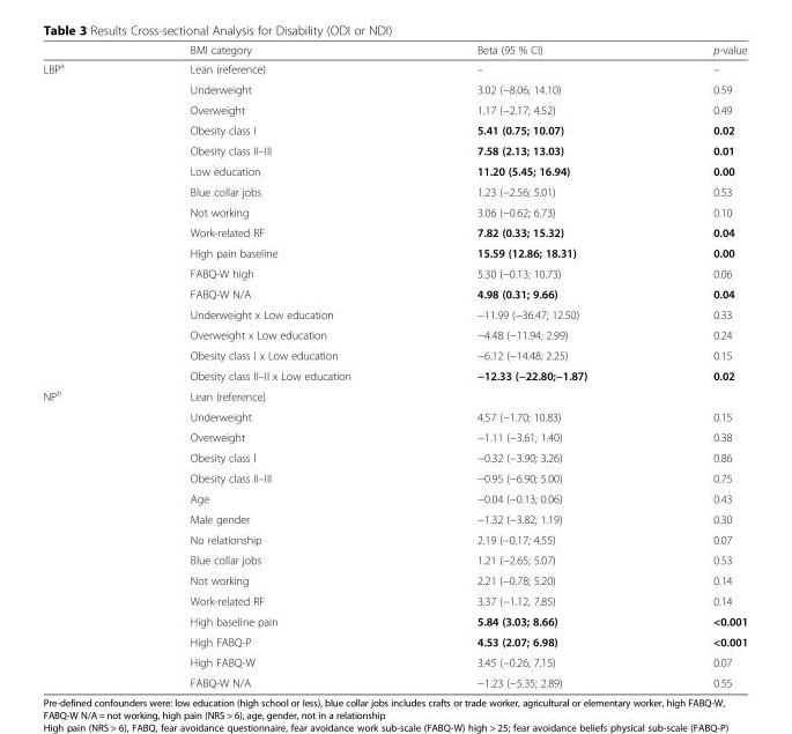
<table><thead><tr><td></td><td>BMI category</td><td>Beta (95 % CI)</td><td>p-value</td></tr></thead><tbody><tr><td rowspan="16">LBP<sup>a</sup></td><td>Lean (reference)</td><td>–</td><td>–</td></tr><tr><td>Underweight</td><td>3.02 (−8.06; 14.10)</td><td>0.59</td></tr><tr><td>Overweight</td><td>1.17 (−2.17; 4.52)</td><td>0.49</td></tr><tr><td>Obesity class I</td><td>5.41 (0.75; 10.07)</td><td>0.02</td></tr><tr><td>Obesity class II–III</td><td>7.58 (2.13; 13.03)</td><td>0.01</td></tr><tr><td>Low education</td><td>11.20 (5.45; 16.94)</td><td>0.00</td></tr><tr><td>Blue collar jobs</td><td>1.23 (−2.56; 5.01)</td><td>0.53</td></tr><tr><td>Not working</td><td>3.06 (−0.62; 6.73)</td><td>0.10</td></tr><tr><td>Work-related RF</td><td>7.82 (0.33; 15.32)</td><td>0.04</td></tr><tr><td>High pain baseline</td><td>15.59 (12.86; 18.31)</td><td>0.00</td></tr><tr><td>FABQ-W high</td><td>5.30 (−0.13; 10.73)</td><td>0.06</td></tr><tr><td>FABQ-W N/A</td><td>4.98 (0.31; 9.66)</td><td>0.04</td></tr><tr><td>Underweight x Low education</td><td>−11.99 (−36.47; 12.50)</td><td>0.33</td></tr><tr><td>Overweight x Low education</td><td>−4.48 (−11.94; 2.99)</td><td>0.24</td></tr><tr><td>Obesity class I x Low education</td><td>−6.12 (−14.48; 2.25)</td><td>0.15</td></tr><tr><td>Obesity class II–II x Low education</td><td>−12.33 (−22.80;−1.87)</td><td>0.02</td></tr><tr><td rowspan="15">NP<sup>b</sup></td><td>Lean (reference)</td><td></td><td></td></tr><tr><td>Underweight</td><td>4.57 (−1.70; 10.83)</td><td>0.15</td></tr><tr><td>Overweight</td><td>−1.11 (−3.61; 1.40)</td><td>0.38</td></tr><tr><td>Obesity class I</td><td>−0.32 (−3.90; 3.26)</td><td>0.86</td></tr><tr><td>Obesity class II–III</td><td>−0.95 (−6.90; 5.00)</td><td>0.75</td></tr><tr><td>Age</td><td>−0.04 (−0.13; 0.06)</td><td>0.43</td></tr><tr><td>Male gender</td><td>−1.32 (−3.82; 1.19)</td><td>0.30</td></tr><tr><td>No relationship</td><td>2.19 (−0.17; 4.55)</td><td>0.07</td></tr><tr><td>Blue collar jobs</td><td>1.21 (−2.65; 5.07)</td><td>0.53</td></tr><tr><td>Not working</td><td>2.21 (−0.78; 5.20)</td><td>0.14</td></tr><tr><td>Work-related RF</td><td>3.37 (−1.12, 7.85)</td><td>0.14</td></tr><tr><td>High baseline pain</td><td>5.84 (3.03; 8.66)</td><td>&lt;0.001</td></tr><tr><td>High FABQ-P</td><td>4.53 (2.07; 6.98)</td><td>&lt;0.001</td></tr><tr><td>High FABQ-W</td><td>3.45 (−0.26; 7.15)</td><td>0.07</td></tr><tr><td>FABQ-W N/A</td><td>−1.23 (−5.35; 2.89)</td><td>0.55</td></tr></tbody></table>